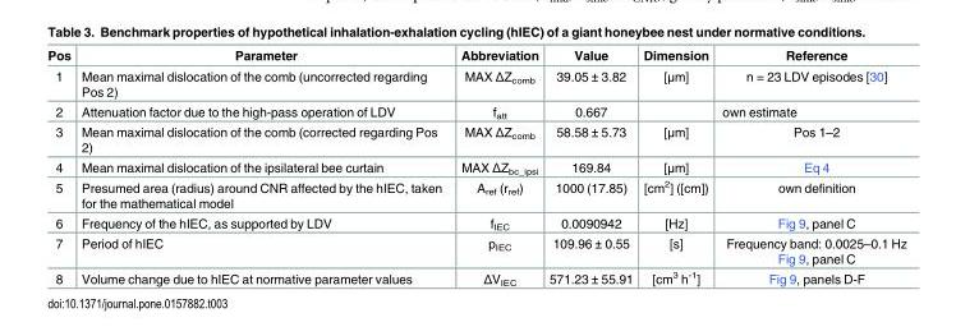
<table><thead><tr><td>Pos</td><td>Parameter</td><td>Abbreviation</td><td>Value</td><td>Dimension</td><td>Reference</td></tr></thead><tbody><tr><td>1</td><td>Mean maximal dislocation of the comb (uncorrected regarding Pos 2)</td><td>MAX ΔZ<sub>comb</sub></td><td>39.05 ± 3.82</td><td>[μm]</td><td>n = 23 LDV episodes [30]</td></tr><tr><td>2</td><td>Attenuation factor due to the high-pass operation of LDV</td><td>f<sub>att</sub></td><td>0.667</td><td></td><td>own estimate</td></tr><tr><td>3</td><td>Mean maximal dislocation of the comb (corrected regarding Pos 2)</td><td>MAX ΔZ<sub>comb</sub></td><td>58.58 ± 5.73</td><td>[μm]</td><td>Pos 1–2</td></tr><tr><td>4</td><td>Mean maximal dislocation of the ipsilateral bee curtain</td><td>MAX ΔZ<sub>bc_ipsi</sub></td><td>169.84</td><td>[μm]</td><td>Eq 4</td></tr><tr><td>5</td><td>Presumed area (radius) around CNR affected by the hIEC, taken for the mathematical model</td><td>A<sub>ref</sub> (r<sub>ref</sub>)</td><td>1000 (17.85)</td><td>[cm<sup>2</sup>] ([cm])</td><td>own definition</td></tr><tr><td>6</td><td>Frequency of the hIEC, as supported by LDV</td><td>f<sub>IEC</sub></td><td>0.0090942</td><td>[Hz]</td><td>Fig 9, panel C</td></tr><tr><td>7</td><td>Period of hIEC</td><td>p<sub>IEC</sub></td><td>109.96 ± 0.55</td><td>[s]</td><td>Frequency band: 0.0025–0.1 Hz Fig 9, panel C</td></tr><tr><td>8</td><td>Volume change due to hIEC at normative parameter values</td><td>ΔV<sub>IEC</sub></td><td>571.23 ± 55.91</td><td>[cm<sup>3</sup> h<sup>-1</sup>]</td><td>Fig 9, panels D-F</td></tr></tbody></table>